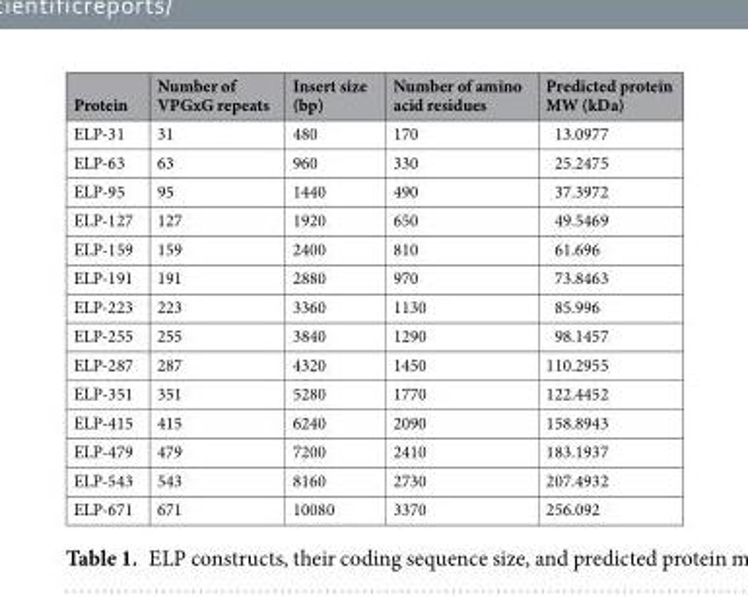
<table><thead><tr><td>Protein</td><td>Number of VPGxG repeats</td><td>Insert size (bp)</td><td>Number of amino acid residues</td><td>Predicted protein MW (kDa)</td></tr></thead><tbody><tr><td>ELP-31</td><td>31</td><td>480</td><td>170</td><td>13.0977</td></tr><tr><td>ELP-63</td><td>63</td><td>960</td><td>330</td><td>25.2475</td></tr><tr><td>ELP-95</td><td>95</td><td>1440</td><td>490</td><td>37.3972</td></tr><tr><td>ELP-127</td><td>127</td><td>1920</td><td>650</td><td>49.5469</td></tr><tr><td>ELP-159</td><td>159</td><td>2400</td><td>810</td><td>61.696</td></tr><tr><td>ELP-191</td><td>191</td><td>2880</td><td>970</td><td>73.8463</td></tr><tr><td>ELP-223</td><td>223</td><td>3360</td><td>1130</td><td>85.996</td></tr><tr><td>ELP-255</td><td>255</td><td>3840</td><td>1290</td><td>98.1457</td></tr><tr><td>ELP-287</td><td>287</td><td>4320</td><td>1450</td><td>110.2955</td></tr><tr><td>ELP-351</td><td>351</td><td>5280</td><td>1770</td><td>122.4452</td></tr><tr><td>ELP-415</td><td>415</td><td>6240</td><td>2090</td><td>158.8943</td></tr><tr><td>ELP-479</td><td>479</td><td>7200</td><td>2410</td><td>183.1937</td></tr><tr><td>ELP-543</td><td>543</td><td>8160</td><td>2730</td><td>207.4932</td></tr><tr><td>ELP-671</td><td>671</td><td>10080</td><td>3370</td><td>256.092</td></tr></tbody></table>